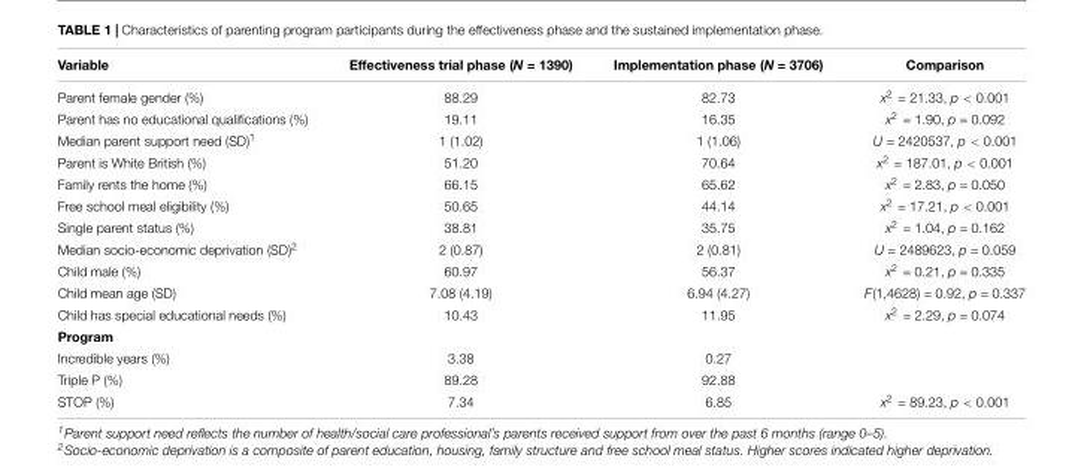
<table><thead><tr><td>Variable</td><td>Effectiveness trial phase (N = 1390)</td><td>Implementation phase (N = 3706)</td><td>Comparison</td></tr></thead><tbody><tr><td>Parent female gender (%)</td><td>88.29</td><td>82.73</td><td>x<sup>2</sup> = 21.33, p &lt; 0.001</td></tr><tr><td>Parent has no educational qualifications (%)</td><td>19.11</td><td>16.35</td><td>x<sup>2</sup> = 1.90, p = 0.092</td></tr><tr><td>Median parent support need (SD)<sup>1</sup></td><td>1 (1.02)</td><td>1 (1.06)</td><td>U = 2420537, p &lt; 0.001</td></tr><tr><td>Parent is White British (%)</td><td>51.20</td><td>70.64</td><td>x<sup>2</sup> = 187.01, p &lt; 0.001</td></tr><tr><td>Family rents the home (%)</td><td>66.15</td><td>65.62</td><td>x<sup>2</sup> = 2.83, p = 0.050</td></tr><tr><td>Free school meal eligibility (%)</td><td>50.65</td><td>44.14</td><td>x<sup>2</sup> = 17.21, p &lt; 0.001</td></tr><tr><td>Single parent status (%)</td><td>38.81</td><td>35.75</td><td>x<sup>2</sup> = 1.04, p = 0.162</td></tr><tr><td>Median socio-economic deprivation (SD)<sup>2</sup></td><td>2 (0.87)</td><td>2 (0.81)</td><td>U = 2489623, p = 0.059</td></tr><tr><td>Child male (%)</td><td>60.97</td><td>56.37</td><td>x<sup>2</sup> = 0.21, p = 0.335</td></tr><tr><td>Child mean age (SD)</td><td>7.08 (4.19)</td><td>6.94 (4.27)</td><td>F(1,4628) = 0.92, p = 0.337</td></tr><tr><td>Child has special educational needs (%)</td><td>10.43</td><td>11.95</td><td>x<sup>2</sup> = 2.29, p = 0.074</td></tr><tr><td colspan="4">Program</td></tr><tr><td>Incredible years (%)</td><td>3.38</td><td>0.27</td><td></td></tr><tr><td>Triple P (%)</td><td>89.28</td><td>92.88</td><td></td></tr><tr><td>STOP (%)</td><td>7.34</td><td>6.85</td><td>x<sup>2</sup> = 89.23, p &lt; 0.001</td></tr></tbody></table>